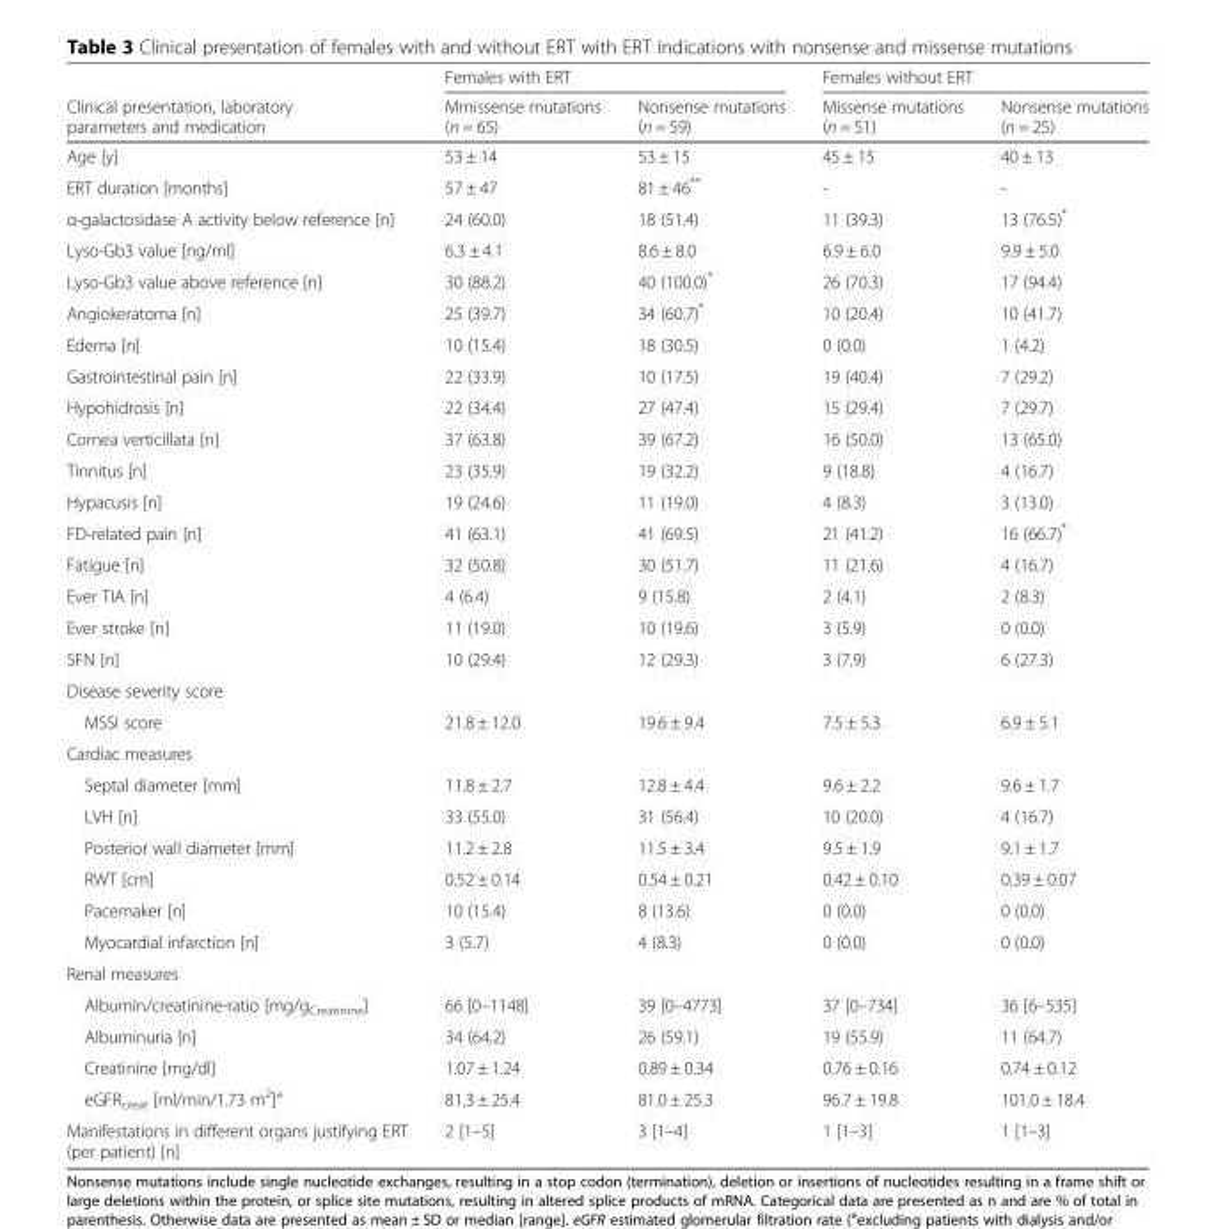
<table><thead><tr><td rowspan="2">Clinical presentation, laboratory parameters and medication</td><td colspan="2">Females with ERT</td><td colspan="2">Females without ERT</td></tr><tr><td>Mmissense mutations (n = 65)</td><td>Nonsense mutations (n = 59)</td><td>Missense mutations (n = 51)</td><td>Nonsense mutations (n = 25)</td></tr></thead><tbody><tr><td>Age [y]</td><td>53 ± 14</td><td>53 ± 15</td><td>45 ± 15</td><td>40 ± 13</td></tr><tr><td>ERT duration [months]</td><td>57 ± 47</td><td>81 ± 46**</td><td>-</td><td>-</td></tr><tr><td>α-galactosidase A activity below reference [n]</td><td>24 (60.0)</td><td>18 (51.4)</td><td>11 (39.3)</td><td>13 (76.5)*</td></tr><tr><td>Lyso-Gb3 value [ng/ml]</td><td>6.3 ± 4.1</td><td>8.6 ± 8.0</td><td>6.9 ± 6.0</td><td>9.9 ± 5.0</td></tr><tr><td>Lyso-Gb3 value above reference [n]</td><td>30 (88.2)</td><td>40 (100.0)*</td><td>26 (70.3)</td><td>17 (94.4)</td></tr><tr><td>Angiokeratoma [n]</td><td>25 (39.7)</td><td>34 (60.7)*</td><td>10 (20.4)</td><td>10 (41.7)</td></tr><tr><td>Edema [n]</td><td>10 (15.4)</td><td>18 (30.5)</td><td>0 (0.0)</td><td>1 (4.2)</td></tr><tr><td>Gastrointestinal pain [n]</td><td>22 (33.9)</td><td>10 (17.5)</td><td>19 (40.4)</td><td>7 (29.2)</td></tr><tr><td>Hypohidrosis [n]</td><td>22 (34.4)</td><td>27 (47.4)</td><td>15 (29.4)</td><td>7 (29.7)</td></tr><tr><td>Cornea verticillata [n]</td><td>37 (63.8)</td><td>39 (67.2)</td><td>16 (50.0)</td><td>13 (65.0)</td></tr><tr><td>Tinnitus [n]</td><td>23 (35.9)</td><td>19 (32.2)</td><td>9 (18.8)</td><td>4 (16.7)</td></tr><tr><td>Hypacusis [n]</td><td>19 (24.6)</td><td>11 (19.0)</td><td>4 (8.3)</td><td>3 (13.0)</td></tr><tr><td>FD-related pain [n]</td><td>41 (63.1)</td><td>41 (69.5)</td><td>21 (41.2)</td><td>16 (66.7)*</td></tr><tr><td>Fatigue [n]</td><td>32 (50.8)</td><td>30 (51.7)</td><td>11 (21.6)</td><td>4 (16.7)</td></tr><tr><td>Ever TIA [n]</td><td>4 (6.4)</td><td>9 (15.8)</td><td>2 (4.1)</td><td>2 (8.3)</td></tr><tr><td>Ever stroke [n]</td><td>11 (19.0)</td><td>10 (19.6)</td><td>3 (5.9)</td><td>0 (0.0)</td></tr><tr><td>SFN [n]</td><td>10 (29.4)</td><td>12 (29.3)</td><td>3 (7.9)</td><td>6 (27.3)</td></tr><tr><td colspan="5">Disease severity score</td></tr><tr><td>MSSI score</td><td>21.8 ± 12.0</td><td>19.6 ± 9.4</td><td>7.5 ± 5.3</td><td>6.9 ± 5.1</td></tr><tr><td colspan="5">Cardiac measures</td></tr><tr><td>Septal diameter [mm]</td><td>11.8 ± 2.7</td><td>12.8 ± 4.4</td><td>9.6 ± 2.2</td><td>9.6 ± 1.7</td></tr><tr><td>LVH [n]</td><td>33 (55.0)</td><td>31 (56.4)</td><td>10 (20.0)</td><td>4 (16.7)</td></tr><tr><td>Posterior wall diameter [mm]</td><td>11.2 ± 2.8</td><td>11.5 ± 3.4</td><td>9.5 ± 1.9</td><td>9.1 ± 1.7</td></tr><tr><td>RWT [cm]</td><td>0.52 ± 0.14</td><td>0.54 ± 0.21</td><td>0.42 ± 0.10</td><td>0.39 ± 0.07</td></tr><tr><td>Pacemaker [n]</td><td>10 (15.4)</td><td>8 (13.6)</td><td>0 (0.0)</td><td>0 (0.0)</td></tr><tr><td>Myocardial infarction [n]</td><td>3 (5.7)</td><td>4 (8.3)</td><td>0 (0.0)</td><td>0 (0.0)</td></tr><tr><td colspan="5">Renal measures</td></tr><tr><td>Albumin/creatinine-ratio [mg/g<sub>Creatinine</sub>]</td><td>66 [0–1148]</td><td>39 [0–4773]</td><td>37 [0–734]</td><td>36 [6–535]</td></tr><tr><td>Albuminuria [n]</td><td>34 (64.2)</td><td>26 (59.1)</td><td>19 (55.9)</td><td>11 (64.7)</td></tr><tr><td>Creatinine [mg/dl]</td><td>1.07 ± 1.24</td><td>0.89 ± 0.34</td><td>0.76 ± 0.16</td><td>0.74 ± 0.12</td></tr><tr><td>eGFR<sub>creat</sub> [ml/min/1.73 m<sup>2</sup>]<sup>a</sup></td><td>81.3 ± 25.4</td><td>81.0 ± 25.3</td><td>96.7 ± 19.8</td><td>101.0 ± 18.4</td></tr><tr><td>Manifestations in different organs justifying ERT (per patient) [n]</td><td>2 [1–5]</td><td>3 [1–4]</td><td>1 [1–3]</td><td>1 [1–3]</td></tr></tbody></table>